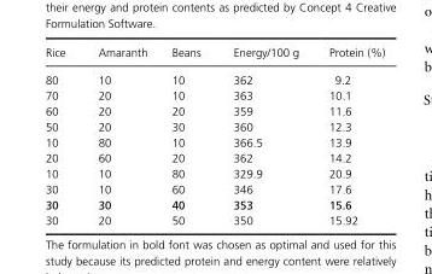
<table><thead><tr><td>Rice</td><td>Amaranth</td><td>Beans</td><td>Energy/100 g</td><td>Protein (%)</td></tr></thead><tbody><tr><td>80</td><td>10</td><td>10</td><td>362</td><td>9.2</td></tr><tr><td>70</td><td>20</td><td>10</td><td>363</td><td>10.1</td></tr><tr><td>60</td><td>20</td><td>20</td><td>359</td><td>11.6</td></tr><tr><td>50</td><td>20</td><td>30</td><td>360</td><td>12.3</td></tr><tr><td>10</td><td>80</td><td>10</td><td>366.5</td><td>13.9</td></tr><tr><td>20</td><td>60</td><td>20</td><td>362</td><td>14.2</td></tr><tr><td>10</td><td>10</td><td>80</td><td>329.9</td><td>20.9</td></tr><tr><td>30</td><td>10</td><td>60</td><td>346</td><td>17.6</td></tr><tr><td>30</td><td>30</td><td>40</td><td>353</td><td>15.6</td></tr><tr><td>30</td><td>20</td><td>50</td><td>350</td><td>15.92</td></tr></tbody></table>